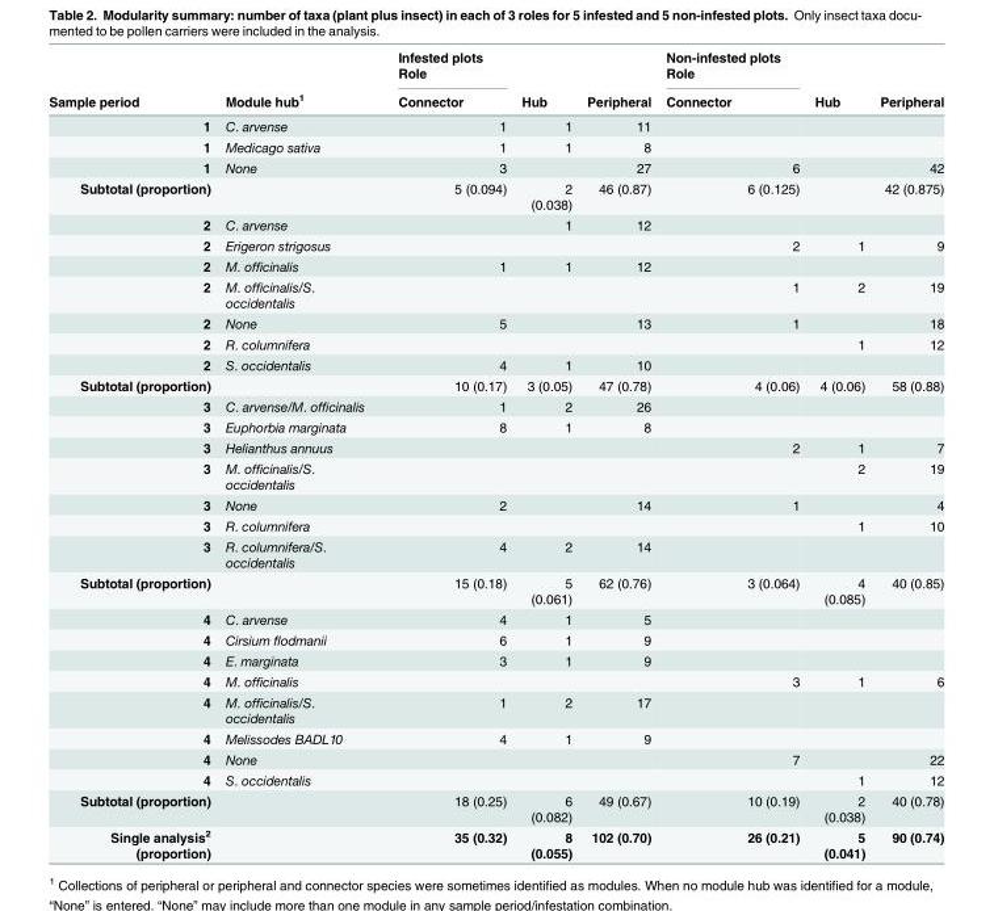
<table><thead><tr><td rowspan="2">Sample period</td><td rowspan="2">Module hub<sup>1</sup></td><td rowspan="2">Infested plots Role Connector</td><td rowspan="2">Hub</td><td rowspan="2">Peripheral</td><td rowspan="2">Non-infested plots Role Connector</td><td rowspan="2">Hub</td><td rowspan="2">Peripheral</td></tr><tr></tr></thead><tbody><tr><td>1</td><td>C. arvense</td><td>1</td><td>1</td><td>11</td><td></td><td></td><td></td></tr><tr><td>1</td><td>Medicago sativa</td><td>1</td><td>1</td><td>8</td><td></td><td></td><td></td></tr><tr><td>1</td><td>None</td><td>3</td><td></td><td>27</td><td>6</td><td></td><td>42</td></tr><tr><td>Subtotal (proportion)</td><td></td><td>5 (0.094)</td><td>2 (0.038)</td><td>46 (0.87)</td><td>6 (0.125)</td><td></td><td>42 (0.875)</td></tr><tr><td>2</td><td>C. arvense</td><td></td><td>1</td><td>12</td><td></td><td></td><td></td></tr><tr><td>2</td><td>Erigeron strigosus</td><td></td><td></td><td></td><td>2</td><td>1</td><td>9</td></tr><tr><td>2</td><td>M. officinalis</td><td>1</td><td>1</td><td>12</td><td></td><td></td><td></td></tr><tr><td>2</td><td>M. officinalis/S. occidentalis</td><td></td><td></td><td></td><td>1</td><td>2</td><td>19</td></tr><tr><td>2</td><td>None</td><td>5</td><td></td><td>13</td><td>1</td><td></td><td>18</td></tr><tr><td>2</td><td>R. columnifera</td><td></td><td></td><td></td><td></td><td>1</td><td>12</td></tr><tr><td>2</td><td>S. occidentalis</td><td>4</td><td>1</td><td>10</td><td></td><td></td><td></td></tr><tr><td>Subtotal (proportion)</td><td></td><td>10 (0.17)</td><td>3 (0.05)</td><td>47 (0.78)</td><td>4 (0.06)</td><td>4 (0.06)</td><td>58 (0.88)</td></tr><tr><td>3</td><td>C. arvense/M. officinalis</td><td>1</td><td>2</td><td>26</td><td></td><td></td><td></td></tr><tr><td>3</td><td>Euphorbia marginata</td><td>8</td><td>1</td><td>8</td><td></td><td></td><td></td></tr><tr><td>3</td><td>Helianthus annuus</td><td></td><td></td><td></td><td>2</td><td>1</td><td>7</td></tr><tr><td>3</td><td>M. officinalis/S. occidentalis</td><td></td><td></td><td></td><td></td><td>2</td><td>19</td></tr><tr><td>3</td><td>None</td><td>2</td><td></td><td>14</td><td>1</td><td></td><td>4</td></tr><tr><td>3</td><td>R. columnifera</td><td></td><td></td><td></td><td></td><td>1</td><td>10</td></tr><tr><td>3</td><td>R. columnifera/S. occidentalis</td><td>4</td><td>2</td><td>14</td><td></td><td></td><td></td></tr><tr><td>Subtotal (proportion)</td><td></td><td>15 (0.18)</td><td>5 (0.061)</td><td>62 (0.76)</td><td>3 (0.064)</td><td>4 (0.085)</td><td>40 (0.85)</td></tr><tr><td>4</td><td>C. arvense</td><td>4</td><td>1</td><td>5</td><td></td><td></td><td></td></tr><tr><td>4</td><td>Cirsium flodmanii</td><td>6</td><td>1</td><td>9</td><td></td><td></td><td></td></tr><tr><td>4</td><td>E. marginata</td><td>3</td><td>1</td><td>9</td><td></td><td></td><td></td></tr><tr><td>4</td><td>M. officinalis</td><td></td><td></td><td></td><td>3</td><td>1</td><td>6</td></tr><tr><td>4</td><td>M. officinalis/S. occidentalis</td><td>1</td><td>2</td><td>17</td><td></td><td></td><td></td></tr><tr><td>4</td><td>Melissodes BADL10</td><td>4</td><td>1</td><td>9</td><td></td><td></td><td></td></tr><tr><td>4</td><td>None</td><td></td><td></td><td></td><td>7</td><td></td><td>22</td></tr><tr><td>4</td><td>S. occidentalis</td><td></td><td></td><td></td><td></td><td>1</td><td>12</td></tr><tr><td>Subtotal (proportion)</td><td></td><td>18 (0.25)</td><td>6 (0.082)</td><td>49 (0.67)</td><td>10 (0.19)</td><td>2 (0.038)</td><td>40 (0.78)</td></tr><tr><td>Single analysis<sup>2</sup> (proportion)</td><td></td><td>35 (0.32)</td><td>8 (0.055)</td><td>102 (0.70)</td><td>26 (0.21)</td><td>5 (0.041)</td><td>90 (0.74)</td></tr></tbody></table>